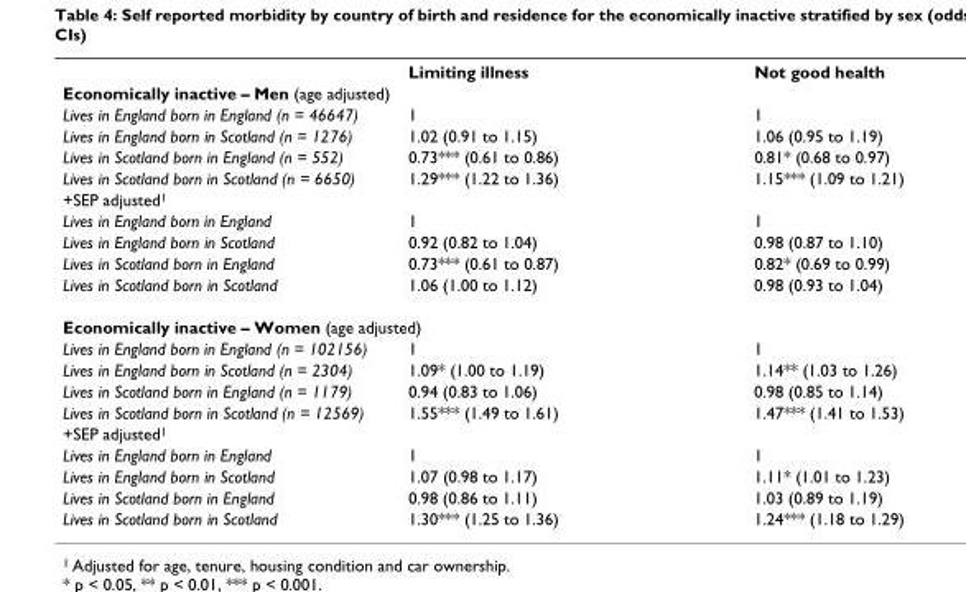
<table><thead><tr><td></td><td>Limiting illness</td><td>Not good health</td></tr></thead><tbody><tr><td colspan="3">Economically inactive – Men (age adjusted)</td></tr><tr><td>Lives in England born in England (n = 46647)</td><td>1</td><td>1</td></tr><tr><td>Lives in England born in Scotland (n = 1276)</td><td>1.02 (0.91 to 1.15)</td><td>1.06 (0.95 to 1.19)</td></tr><tr><td>Lives in Scotland born in England (n = 552)</td><td>0.73*** (0.61 to 0.86)</td><td>0.81* (0.68 to 0.97)</td></tr><tr><td>Lives in Scotland born in Scotland (n = 6650)</td><td>1.29*** (1.22 to 1.36)</td><td>1.15*** (1.09 to 1.21)</td></tr><tr><td colspan="3">+SEP adjusted1</td></tr><tr><td>Lives in England born in England</td><td>1</td><td>1</td></tr><tr><td>Lives in England born in Scotland</td><td>0.92 (0.82 to 1.04)</td><td>0.98 (0.87 to 1.10)</td></tr><tr><td>Lives in Scotland born in England</td><td>0.73*** (0.61 to 0.87)</td><td>0.82* (0.69 to 0.99)</td></tr><tr><td>Lives in Scotland born in Scotland</td><td>1.06 (1.00 to 1.12)</td><td>0.98 (0.93 to 1.04)</td></tr><tr><td colspan="3">Economically inactive – Women (age adjusted)</td></tr><tr><td>Lives in England born in England (n = 102156)</td><td>1</td><td>1</td></tr><tr><td>Lives in England born in Scotland (n = 2304)</td><td>1.09* (1.00 to 1.19)</td><td>1.14** (1.03 to 1.26)</td></tr><tr><td>Lives in Scotland born in England (n = 1179)</td><td>0.94 (0.83 to 1.06)</td><td>0.98 (0.85 to 1.14)</td></tr><tr><td>Lives in Scotland born in Scotland (n = 12569)</td><td>1.55*** (1.49 to 1.61)</td><td>1.47*** (1.41 to 1.53)</td></tr><tr><td colspan="3">+SEP adjusted1</td></tr><tr><td>Lives in England born in England</td><td>1</td><td>1</td></tr><tr><td>Lives in England born in Scotland</td><td>1.07 (0.98 to 1.17)</td><td>1.11* (1.01 to 1.23)</td></tr><tr><td>Lives in Scotland born in England</td><td>0.98 (0.86 to 1.11)</td><td>1.03 (0.89 to 1.19)</td></tr><tr><td>Lives in Scotland born in Scotland</td><td>1.30*** (1.25 to 1.36)</td><td>1.24*** (1.18 to 1.29)</td></tr></tbody></table>